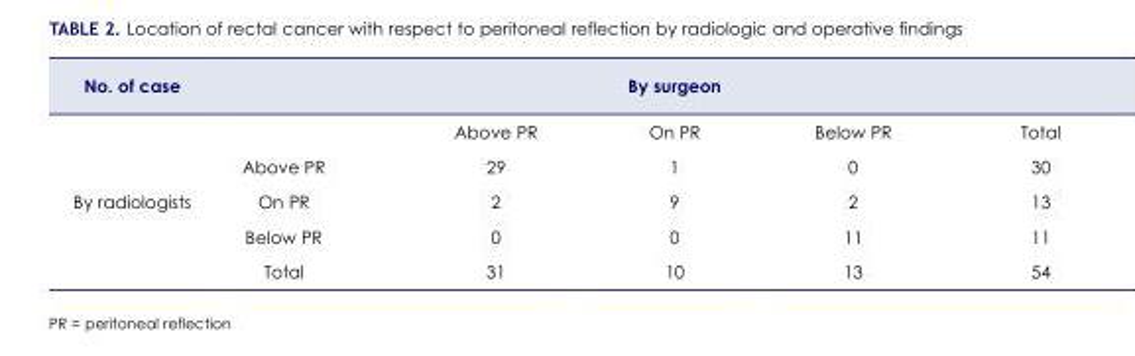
<table><thead><tr><td rowspan="2">No. of case</td><td rowspan="2"></td><td colspan="3">By surgeon</td><td rowspan="2">Total</td></tr><tr><td>Above PR</td><td>On PR</td><td>Below PR</td></tr></thead><tbody><tr><td rowspan="4">By radiologists</td><td>Above PR</td><td>29</td><td>1</td><td>0</td><td>30</td></tr><tr><td>On PR</td><td>2</td><td>9</td><td>2</td><td>13</td></tr><tr><td>Below PR</td><td>0</td><td>0</td><td>11</td><td>11</td></tr><tr><td>Total</td><td>31</td><td>10</td><td>13</td><td>54</td></tr></tbody></table>